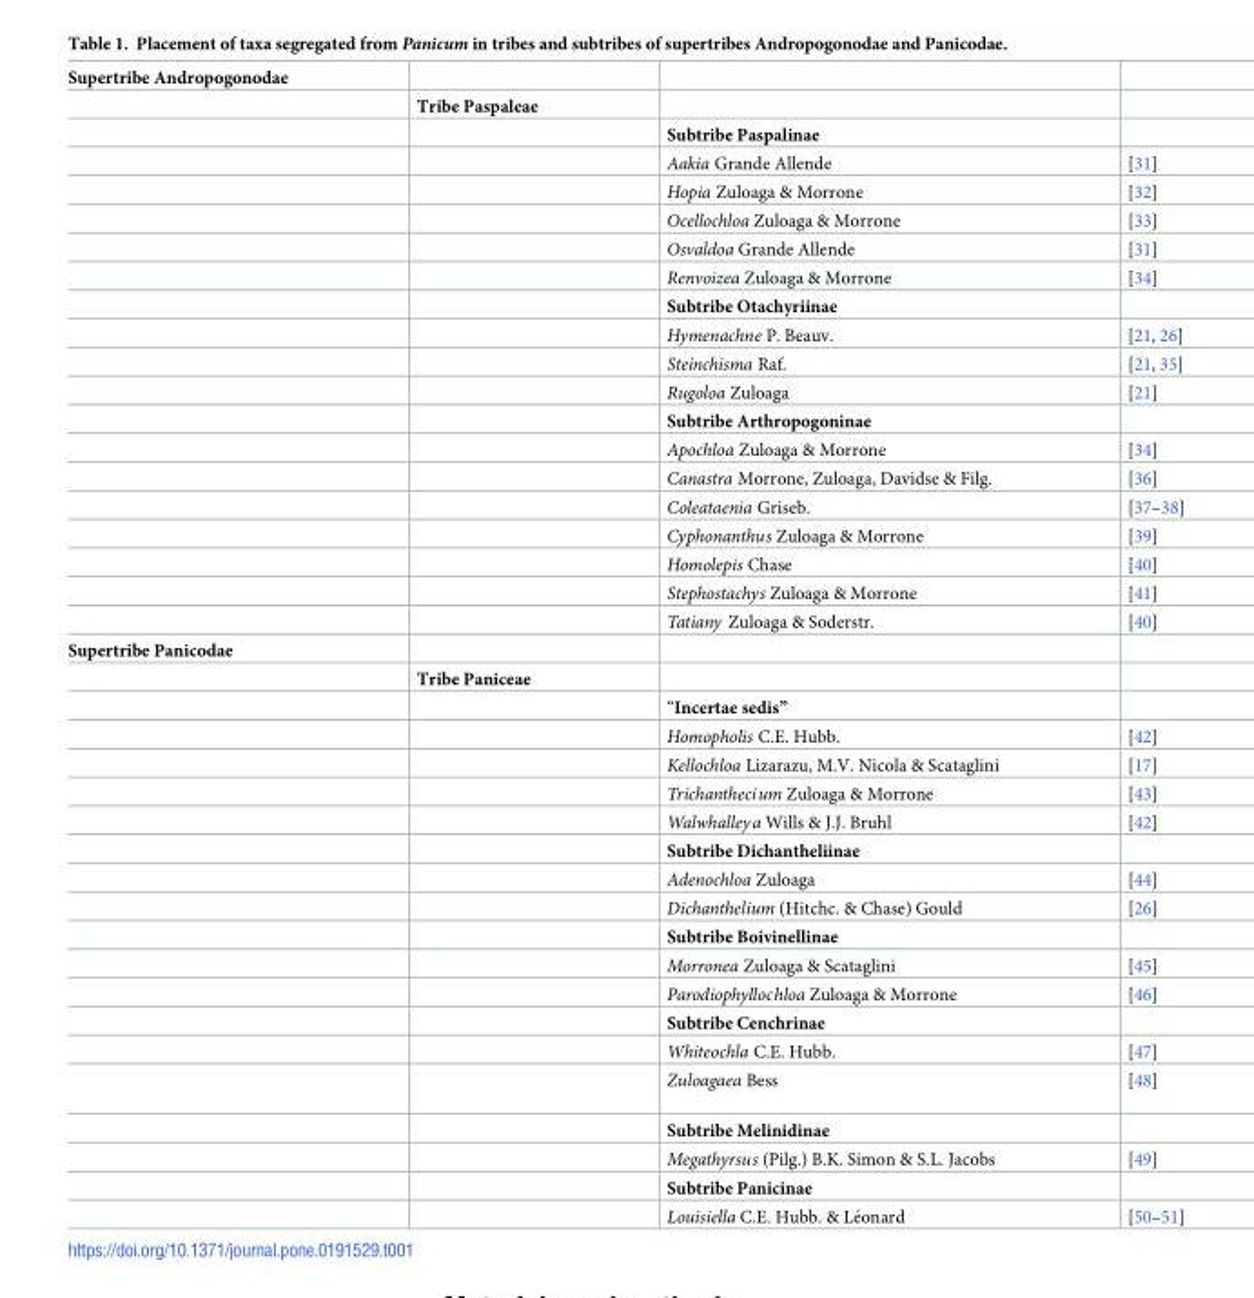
<table><tbody><tr><td colspan="4">Supertribe Andropogonodae</td></tr><tr><td></td><td>Tribe Paspaleae</td><td></td><td></td></tr><tr><td></td><td></td><td>Subtribe Paspalinae</td><td></td></tr><tr><td></td><td></td><td>Aakia Grande Allende</td><td>[31]</td></tr><tr><td></td><td></td><td>Hopia Zuloaga &amp; Morrone</td><td>[32]</td></tr><tr><td></td><td></td><td>Ocellochloa Zuloaga &amp; Morrone</td><td>[33]</td></tr><tr><td></td><td></td><td>Osvaldoa Grande Allende</td><td>[31]</td></tr><tr><td></td><td></td><td>Renvoizea Zuloaga &amp; Morrone</td><td>[34]</td></tr><tr><td></td><td></td><td>Subtribe Otachyriinae</td><td></td></tr><tr><td></td><td></td><td>Hymenachne P. Beauv.</td><td>[21, 26]</td></tr><tr><td></td><td></td><td>Steinchisma Raf.</td><td>[21, 35]</td></tr><tr><td></td><td></td><td>Rugoloa Zuloaga</td><td>[21]</td></tr><tr><td></td><td></td><td>Subtribe Arthropogoninae</td><td></td></tr><tr><td></td><td></td><td>Apochloa Zuloaga &amp; Morrone</td><td>[34]</td></tr><tr><td></td><td></td><td>Canastra Morrone, Zuloaga, Davidse &amp; Filg.</td><td>[36]</td></tr><tr><td></td><td></td><td>Coleataenia Griseb.</td><td>[37–38]</td></tr><tr><td></td><td></td><td>Cyphonanthus Zuloaga &amp; Morrone</td><td>[39]</td></tr><tr><td></td><td></td><td>Homolepis Chase</td><td>[40]</td></tr><tr><td></td><td></td><td>Stephostachys Zuloaga &amp; Morrone</td><td>[41]</td></tr><tr><td></td><td></td><td>Tatiany Zuloaga &amp; Soderstr.</td><td>[40]</td></tr><tr><td colspan="4">Supertribe Panicodae</td></tr><tr><td></td><td>Tribe Paniceae</td><td></td><td></td></tr><tr><td></td><td></td><td>“Incertae sedis”</td><td></td></tr><tr><td></td><td></td><td>Homopholis C.E. Hubb.</td><td>[42]</td></tr><tr><td></td><td></td><td>Kellochloa Lizarazu, M.V. Nicola &amp; Scataglini</td><td>[17]</td></tr><tr><td></td><td></td><td>Trichanthecium Zuloaga &amp; Morrone</td><td>[43]</td></tr><tr><td></td><td></td><td>Walwhalleya Wills &amp; J.J. Bruhl</td><td>[42]</td></tr><tr><td></td><td></td><td>Subtribe Dichantheliinae</td><td></td></tr><tr><td></td><td></td><td>Adenochloa Zuloaga</td><td>[44]</td></tr><tr><td></td><td></td><td>Dichanthelium (Hitchc. &amp; Chase) Gould</td><td>[26]</td></tr><tr><td></td><td></td><td>Subtribe Boivinellinae</td><td></td></tr><tr><td></td><td></td><td>Morronea Zuloaga &amp; Scataglini</td><td>[45]</td></tr><tr><td></td><td></td><td>Parodiophyllochloa Zuloaga &amp; Morrone</td><td>[46]</td></tr><tr><td></td><td></td><td>Subtribe Cenchrinae</td><td></td></tr><tr><td></td><td></td><td>Whiteochla C.E. Hubb.</td><td>[47]</td></tr><tr><td></td><td></td><td>Zuloagaea Bess</td><td>[48]</td></tr><tr><td></td><td></td><td>Subtribe Melinidinae</td><td></td></tr><tr><td></td><td></td><td>Megathyrsus (Pilg.) B.K. Simon &amp; S.L. Jacobs</td><td>[49]</td></tr><tr><td></td><td></td><td>Subtribe Panicinae</td><td></td></tr><tr><td></td><td></td><td>Louisiella C.E. Hubb. &amp; Le´onard</td><td>[50–51]</td></tr></tbody></table>